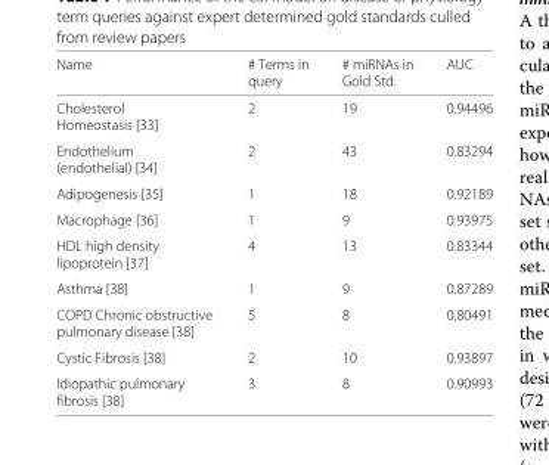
<table><thead><tr><td rowspan="2">Name</td><td rowspan="2"># Terms in query</td><td rowspan="2"># miRNAs in Gold Std.</td><td rowspan="2">AUC</td></tr><tr></tr></thead><tbody><tr><td>Cholesterol Homeostasis [33]</td><td>2</td><td>19</td><td>0.94496</td></tr><tr><td>Endothelium (endothelial) [34]</td><td>2</td><td>43</td><td>0.83294</td></tr><tr><td>Adipogenesis [35]</td><td>1</td><td>18</td><td>0.92189</td></tr><tr><td>Macrophage [36]</td><td>1</td><td>9</td><td>0.93975</td></tr><tr><td>HDL high density lipoprotein [37]</td><td>4</td><td>13</td><td>0.83344</td></tr><tr><td>Asthma [38]</td><td>1</td><td>9</td><td>0.87289</td></tr><tr><td>COPD Chronic obstructive pulmonary disease [38]</td><td>5</td><td>8</td><td>0.80491</td></tr><tr><td>Cystic Fibrosis [38]</td><td>2</td><td>10</td><td>0.93897</td></tr><tr><td>Idiopathic pulmonary fibrosis [38]</td><td>3</td><td>8</td><td>0.90993</td></tr></tbody></table>